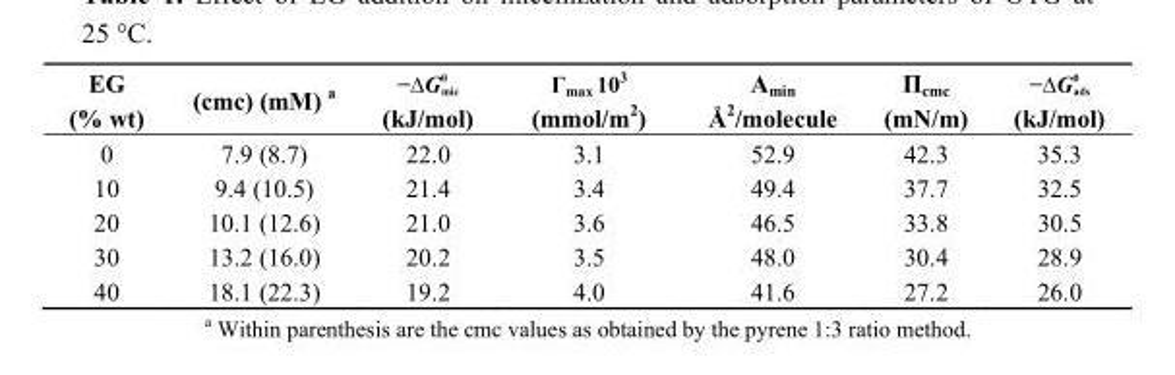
<table><thead><tr><td>EG (% wt)</td><td>(cmc) (mM) a</td><td>−∆G 0 mic (kJ/mol)</td><td>Γ<sub>max</sub> 10<sup>3</sup> (mmol/m<sup>2</sup>)</td><td>A<sub>min</sub> Å<sup>2</sup>/molecule</td><td>Π<sub>cmc</sub> (mN/m)</td><td>−∆G 0 ads (kJ/mol)</td></tr></thead><tbody><tr><td>0</td><td>7.9 (8.7)</td><td>22.0</td><td>3.1</td><td>52.9</td><td>42.3</td><td>35.3</td></tr><tr><td>10</td><td>9.4 (10.5)</td><td>21.4</td><td>3.4</td><td>49.4</td><td>37.7</td><td>32.5</td></tr><tr><td>20</td><td>10.1 (12.6)</td><td>21.0</td><td>3.6</td><td>46.5</td><td>33.8</td><td>30.5</td></tr><tr><td>30</td><td>13.2 (16.0)</td><td>20.2</td><td>3.5</td><td>48.0</td><td>30.4</td><td>28.9</td></tr><tr><td>40</td><td>18.1 (22.3)</td><td>19.2</td><td>4.0</td><td>41.6</td><td>27.2</td><td>26.0</td></tr></tbody></table>